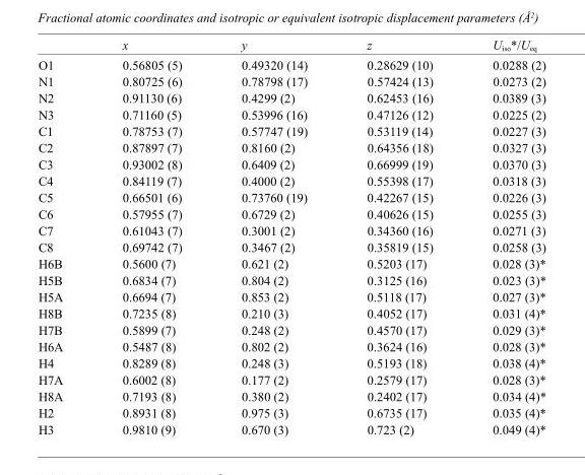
<table><thead><tr><td></td><td>x</td><td>y</td><td>z</td><td>U<sub>iso</sub>*/U<sub>eq</sub></td></tr></thead><tbody><tr><td>O1</td><td>0.56805 (5)</td><td>0.49320 (14)</td><td>0.28629 (10)</td><td>0.0288 (2)</td></tr><tr><td>N1</td><td>0.80725 (6)</td><td>0.78798 (17)</td><td>0.57424 (13)</td><td>0.0273 (2)</td></tr><tr><td>N2</td><td>0.91130 (6)</td><td>0.4299 (2)</td><td>0.62453 (16)</td><td>0.0389 (3)</td></tr><tr><td>N3</td><td>0.71160 (5)</td><td>0.53996 (16)</td><td>0.47126 (12)</td><td>0.0225 (2)</td></tr><tr><td>C1</td><td>0.78753 (7)</td><td>0.57747 (19)</td><td>0.53119 (14)</td><td>0.0227 (3)</td></tr><tr><td>C2</td><td>0.87897 (7)</td><td>0.8160 (2)</td><td>0.64356 (18)</td><td>0.0327 (3)</td></tr><tr><td>C3</td><td>0.93002 (8)</td><td>0.6409 (2)</td><td>0.66999 (19)</td><td>0.0370 (3)</td></tr><tr><td>C4</td><td>0.84119 (7)</td><td>0.4000 (2)</td><td>0.55398 (17)</td><td>0.0318 (3)</td></tr><tr><td>C5</td><td>0.66501 (6)</td><td>0.73760 (19)</td><td>0.42267 (15)</td><td>0.0226 (3)</td></tr><tr><td>C6</td><td>0.57955 (7)</td><td>0.6729 (2)</td><td>0.40626 (15)</td><td>0.0255 (3)</td></tr><tr><td>C7</td><td>0.61043 (7)</td><td>0.3001 (2)</td><td>0.34360 (16)</td><td>0.0271 (3)</td></tr><tr><td>C8</td><td>0.69742 (7)</td><td>0.3467 (2)</td><td>0.35819 (15)</td><td>0.0258 (3)</td></tr><tr><td>H6B</td><td>0.5600 (7)</td><td>0.621 (2)</td><td>0.5203 (17)</td><td>0.028 (3)*</td></tr><tr><td>H5B</td><td>0.6834 (7)</td><td>0.804 (2)</td><td>0.3125 (16)</td><td>0.023 (3)*</td></tr><tr><td>H5A</td><td>0.6694 (7)</td><td>0.853 (2)</td><td>0.5118 (17)</td><td>0.027 (3)*</td></tr><tr><td>H8B</td><td>0.7235 (8)</td><td>0.210 (3)</td><td>0.4052 (17)</td><td>0.031 (4)*</td></tr><tr><td>H7B</td><td>0.5899 (7)</td><td>0.248 (2)</td><td>0.4570 (17)</td><td>0.029 (3)*</td></tr><tr><td>H6A</td><td>0.5487 (8)</td><td>0.802 (2)</td><td>0.3624 (16)</td><td>0.028 (3)*</td></tr><tr><td>H4</td><td>0.8289 (8)</td><td>0.248 (3)</td><td>0.5193 (18)</td><td>0.038 (4)*</td></tr><tr><td>H7A</td><td>0.6002 (8)</td><td>0.177 (2)</td><td>0.2579 (17)</td><td>0.028 (3)*</td></tr><tr><td>H8A</td><td>0.7193 (8)</td><td>0.380 (2)</td><td>0.2402 (17)</td><td>0.034 (4)*</td></tr><tr><td>H2</td><td>0.8931 (8)</td><td>0.975 (3)</td><td>0.6735 (17)</td><td>0.035 (4)*</td></tr><tr><td>H3</td><td>0.9810 (9)</td><td>0.670 (3)</td><td>0.723 (2)</td><td>0.049 (4)*</td></tr></tbody></table>